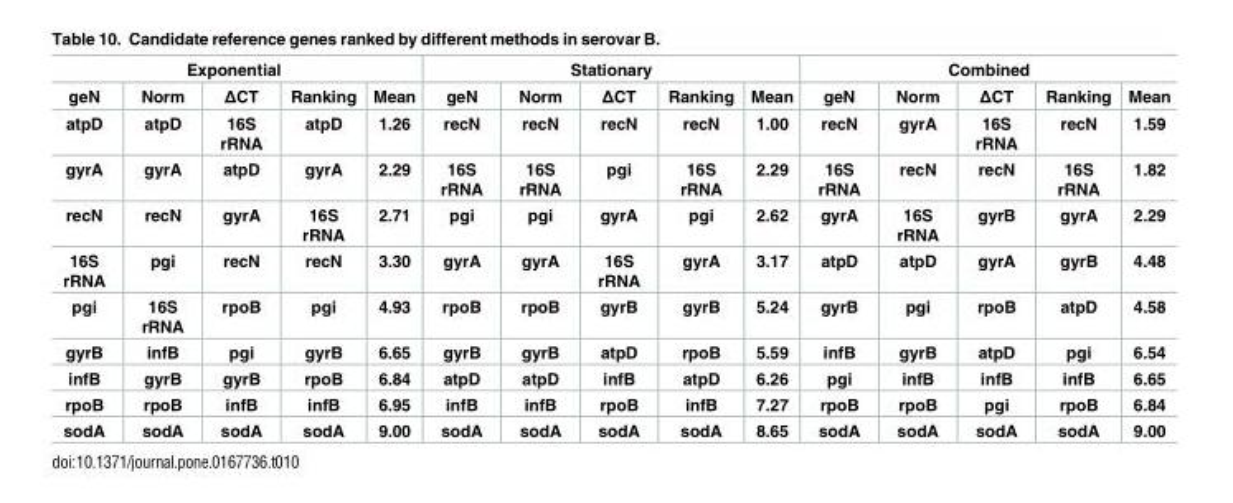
<table><thead><tr><td colspan="5">Exponential</td><td colspan="5">Stationary</td><td colspan="5">Combined</td></tr><tr><td>geN</td><td>Norm</td><td>ΔCT</td><td>Ranking</td><td>Mean</td><td>geN</td><td>Norm</td><td>ΔCT</td><td>Ranking</td><td>Mean</td><td>geN</td><td>Norm</td><td>ΔCT</td><td>Ranking</td><td>Mean</td></tr></thead><tbody><tr><td>atpD</td><td>atpD</td><td>16S rRNA</td><td>atpD</td><td>1.26</td><td>recN</td><td>recN</td><td>recN</td><td>recN</td><td>1.00</td><td>recN</td><td>gyrA</td><td>16S rRNA</td><td>recN</td><td>1.59</td></tr><tr><td>gyrA</td><td>gyrA</td><td>atpD</td><td>gyrA</td><td>2.29</td><td>16S rRNA</td><td>16S rRNA</td><td>pgi</td><td>16S rRNA</td><td>2.29</td><td>16S rRNA</td><td>recN</td><td>recN</td><td>16S rRNA</td><td>1.82</td></tr><tr><td>recN</td><td>recN</td><td>gyrA</td><td>16S rRNA</td><td>2.71</td><td>pgi</td><td>pgi</td><td>gyrA</td><td>pgi</td><td>2.62</td><td>gyrA</td><td>16S rRNA</td><td>gyrB</td><td>gyrA</td><td>2.29</td></tr><tr><td>16S rRNA</td><td>pgi</td><td>recN</td><td>recN</td><td>3.30</td><td>gyrA</td><td>gyrA</td><td>16S rRNA</td><td>gyrA</td><td>3.17</td><td>atpD</td><td>atpD</td><td>gyrA</td><td>gyrB</td><td>4.48</td></tr><tr><td>pgi</td><td>16S rRNA</td><td>rpoB</td><td>pgi</td><td>4.93</td><td>rpoB</td><td>rpoB</td><td>gyrB</td><td>gyrB</td><td>5.24</td><td>gyrB</td><td>pgi</td><td>rpoB</td><td>atpD</td><td>4.58</td></tr><tr><td>gyrB</td><td>infB</td><td>pgi</td><td>gyrB</td><td>6.65</td><td>gyrB</td><td>gyrB</td><td>atpD</td><td>rpoB</td><td>5.59</td><td>infB</td><td>gyrB</td><td>atpD</td><td>pgi</td><td>6.54</td></tr><tr><td>infB</td><td>gyrB</td><td>gyrB</td><td>rpoB</td><td>6.84</td><td>atpD</td><td>atpD</td><td>infB</td><td>atpD</td><td>6.26</td><td>pgi</td><td>infB</td><td>infB</td><td>infB</td><td>6.65</td></tr><tr><td>rpoB</td><td>rpoB</td><td>infB</td><td>infB</td><td>6.95</td><td>infB</td><td>infB</td><td>rpoB</td><td>infB</td><td>7.27</td><td>rpoB</td><td>rpoB</td><td>pgi</td><td>rpoB</td><td>6.84</td></tr><tr><td>sodA</td><td>sodA</td><td>sodA</td><td>sodA</td><td>9.00</td><td>sodA</td><td>sodA</td><td>sodA</td><td>sodA</td><td>8.65</td><td>sodA</td><td>sodA</td><td>sodA</td><td>sodA</td><td>9.00</td></tr></tbody></table>